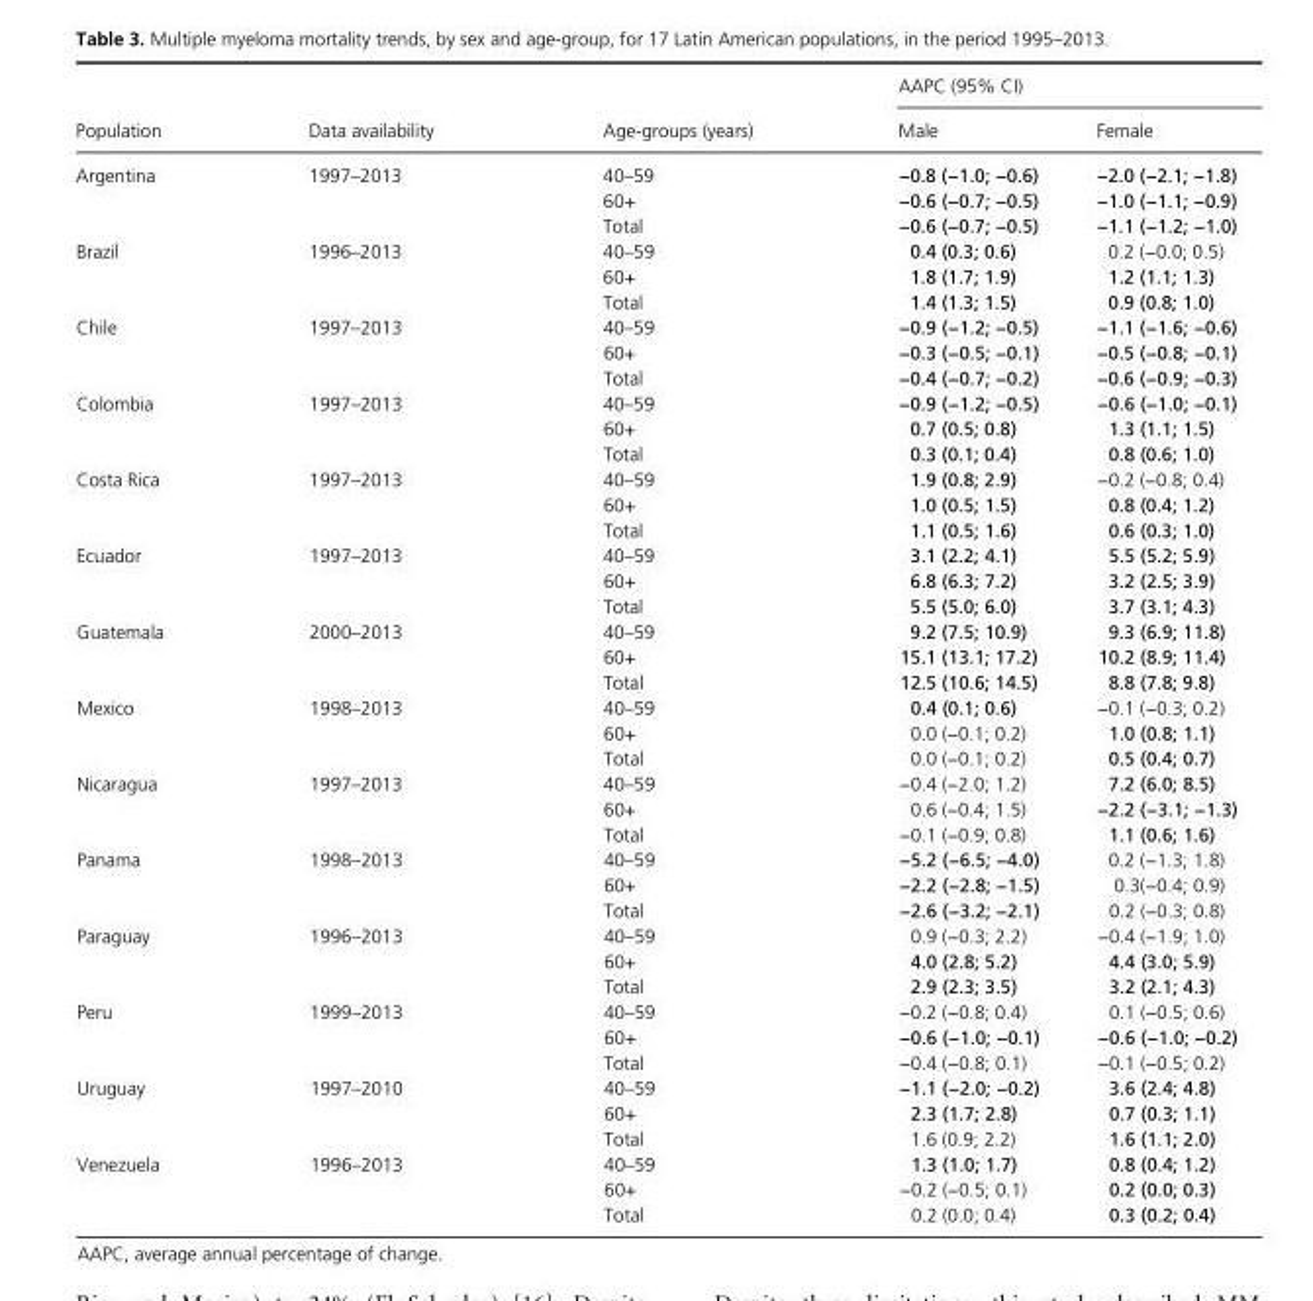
<table><thead><tr><td rowspan="2">Population</td><td rowspan="2">Data availability</td><td rowspan="2">Age- groups (years)</td><td colspan="2">AAPC (95% CI)</td></tr><tr><td>Male</td><td>Female</td></tr></thead><tbody><tr><td rowspan="3">Argentina</td><td rowspan="3">1997–2013</td><td>40–59</td><td>−0.8 (−1.0; −0.6)</td><td>−2.0 (−2.1; −1.8)</td></tr><tr><td>60+</td><td>−0.6 (−0.7; −0.5)</td><td>−1.0 (−1.1; −0.9)</td></tr><tr><td>Total</td><td>−0.6 (−0.7; −0.5)</td><td>−1.1 (−1.2; −1.0)</td></tr><tr><td rowspan="3">Brazil</td><td rowspan="3">1996–2013</td><td>40–59</td><td>0.4 (0.3; 0.6)</td><td>0.2 (−0.0; 0.5)</td></tr><tr><td>60+</td><td>1.8 (1.7; 1.9)</td><td>1.2 (1.1; 1.3)</td></tr><tr><td>Total</td><td>1.4 (1.3; 1.5)</td><td>0.9 (0.8; 1.0)</td></tr><tr><td rowspan="3">Chile</td><td rowspan="3">1997–2013</td><td>40–59</td><td>−0.9 (−1.2; −0.5)</td><td>−1.1 (−1.6; −0.6)</td></tr><tr><td>60+</td><td>−0.3 (−0.5; −0.1)</td><td>−0.5 (−0.8; −0.1)</td></tr><tr><td>Total</td><td>−0.4 (−0.7; −0.2)</td><td>−0.6 (−0.9; −0.3)</td></tr><tr><td rowspan="3">Colombia</td><td rowspan="3">1997–2013</td><td>40–59</td><td>−0.9 (−1.2; −0.5)</td><td>−0.6 (−1.0; −0.1)</td></tr><tr><td>60+</td><td>0.7 (0.5; 0.8)</td><td>1.3 (1.1; 1.5)</td></tr><tr><td>Total</td><td>0.3 (0.1; 0.4)</td><td>0.8 (0.6; 1.0)</td></tr><tr><td rowspan="3">Costa Rica</td><td rowspan="3">1997–2013</td><td>40–59</td><td>1.9 (0.8; 2.9)</td><td>−0.2 (−0.8; 0.4)</td></tr><tr><td>60+</td><td>1.0 (0.5; 1.5)</td><td>0.8 (0.4; 1.2)</td></tr><tr><td>Total</td><td>1.1 (0.5; 1.6)</td><td>0.6 (0.3; 1.0)</td></tr><tr><td rowspan="3">Ecuador</td><td rowspan="3">1997–2013</td><td>40–59</td><td>3.1 (2.2; 4.1)</td><td>5.5 (5.2; 5.9)</td></tr><tr><td>60+</td><td>6.8 (6.3; 7.2)</td><td>3.2 (2.5; 3.9)</td></tr><tr><td>Total</td><td>5.5 (5.0; 6.0)</td><td>3.7 (3.1; 4.3)</td></tr><tr><td rowspan="3">Guatemala</td><td rowspan="3">2000–2013</td><td>40–59</td><td>9.2 (7.5; 10.9)</td><td>9.3 (6.9; 11.8)</td></tr><tr><td>60+</td><td>15.1 (13.1; 17.2)</td><td>10.2 (8.9; 11.4)</td></tr><tr><td>Total</td><td>12.5 (10.6; 14.5)</td><td>8.8 (7.8; 9.8)</td></tr><tr><td rowspan="3">Mexico</td><td rowspan="3">1998–2013</td><td>40–59</td><td>0.4 (0.1; 0.6)</td><td>−0.1 (−0.3; 0.2)</td></tr><tr><td>60+</td><td>0.0 (−0.1; 0.2)</td><td>1.0 (0.8; 1.1)</td></tr><tr><td>Total</td><td>0.0 (−0.1; 0.2)</td><td>0.5 (0.4; 0.7)</td></tr><tr><td rowspan="3">Nicaragua</td><td rowspan="3">1997–2013</td><td>40–59</td><td>−0.4 (−2.0; 1.2)</td><td>7.2 (6.0; 8.5)</td></tr><tr><td>60+</td><td>0.6 (−0.4; 1.5)</td><td>−2.2 (−3.1; −1.3)</td></tr><tr><td>Total</td><td>−0.1 (−0.9; 0.8)</td><td>1.1 (0.6; 1.6)</td></tr><tr><td rowspan="3">Panama</td><td rowspan="3">1998–2013</td><td>40–59</td><td>−5.2 (−6.5; −4.0)</td><td>0.2 (−1.3; 1.8)</td></tr><tr><td>60+</td><td>−2.2 (−2.8; −1.5)</td><td>0.3(−0.4; 0.9)</td></tr><tr><td>Total</td><td>−2.6 (−3.2; −2.1)</td><td>0.2 (−0.3; 0.8)</td></tr><tr><td rowspan="3">Paraguay</td><td rowspan="3">1996–2013</td><td>40–59</td><td>0.9 (−0.3; 2.2)</td><td>−0.4 (−1.9; 1.0)</td></tr><tr><td>60+</td><td>4.0 (2.8; 5.2)</td><td>4.4 (3.0; 5.9)</td></tr><tr><td>Total</td><td>2.9 (2.3; 3.5)</td><td>3.2 (2.1; 4.3)</td></tr><tr><td rowspan="3">Peru</td><td rowspan="3">1999–2013</td><td>40–59</td><td>−0.2 (−0.8; 0.4)</td><td>0.1 (−0.5; 0.6)</td></tr><tr><td>60+</td><td>−0.6 (−1.0; −0.1)</td><td>−0.6 (−1.0; −0.2)</td></tr><tr><td>Total</td><td>−0.4 (−0.8; 0.1)</td><td>−0.1 (−0.5; 0.2)</td></tr><tr><td rowspan="3">Uruguay</td><td rowspan="3">1997–2010</td><td>40–59</td><td>−1.1 (−2.0; −0.2)</td><td>3.6 (2.4; 4.8)</td></tr><tr><td>60+</td><td>2.3 (1.7; 2.8)</td><td>0.7 (0.3; 1.1)</td></tr><tr><td>Total</td><td>1.6 (0.9; 2.2)</td><td>1.6 (1.1; 2.0)</td></tr><tr><td rowspan="3">Venezuela</td><td rowspan="3">1996–2013</td><td>40–59</td><td>1.3 (1.0; 1.7)</td><td>0.8 (0.4; 1.2)</td></tr><tr><td>60+</td><td>−0.2 (−0.5; 0.1)</td><td>0.2 (0.0; 0.3)</td></tr><tr><td>Total</td><td>0.2 (0.0; 0.4)</td><td>0.3 (0.2; 0.4)</td></tr></tbody></table>